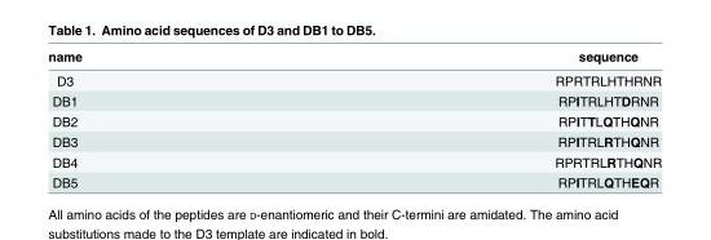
<table><thead><tr><td>name</td><td>sequence</td></tr></thead><tbody><tr><td>D3</td><td>RPRTRLHTHRNR</td></tr><tr><td>DB1</td><td>RPITRLHTDRNR</td></tr><tr><td>DB2</td><td>RPITTLQTHQNR</td></tr><tr><td>DB3</td><td>RPITRLRTHQNR</td></tr><tr><td>DB4</td><td>RPRTRLRTHQNR</td></tr><tr><td>DB5</td><td>RPITRLQTHEQR</td></tr></tbody></table>